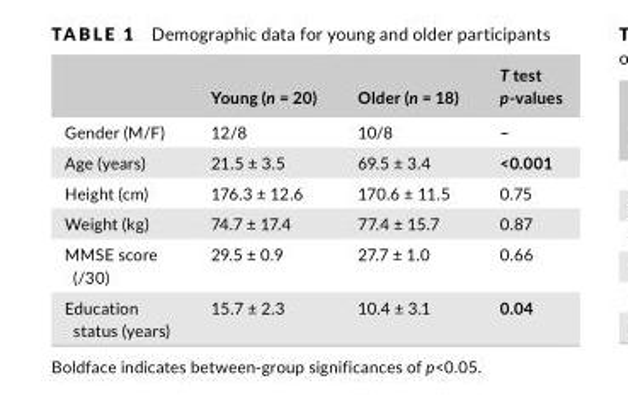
<table><thead><tr><td></td><td>Young (n = 20)</td><td>Older (n = 18)</td><td>T test p‐values</td></tr></thead><tbody><tr><td>Gender (M/F)</td><td>12/8</td><td>10/8</td><td>–</td></tr><tr><td>Age (years)</td><td>21.5 ± 3.5</td><td>69.5 ± 3.4</td><td>&lt;0.001</td></tr><tr><td>Height (cm)</td><td>176.3 ± 12.6</td><td>170.6 ± 11.5</td><td>0.75</td></tr><tr><td>Weight (kg)</td><td>74.7 ± 17.4</td><td>77.4 ± 15.7</td><td>0.87</td></tr><tr><td>MMSE score (/30)</td><td>29.5 ± 0.9</td><td>27.7 ± 1.0</td><td>0.66</td></tr><tr><td>Education status (years)</td><td>15.7 ± 2.3</td><td>10.4 ± 3.1</td><td>0.04</td></tr></tbody></table>